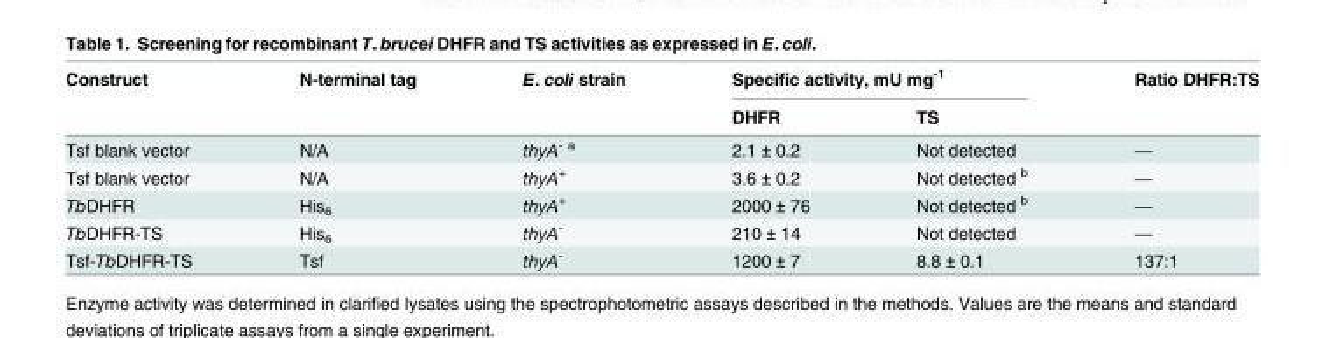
<table><thead><tr><td rowspan="2">Construct</td><td rowspan="2">N-terminal tag</td><td rowspan="2">E. coli strain</td><td colspan="2">Specific activity, mU mg<sup>-1</sup></td><td rowspan="2">Ratio DHFR:TS</td></tr><tr><td>DHFR</td><td>TS</td></tr></thead><tbody><tr><td>Tsf blank vector</td><td>N/A</td><td>thyA<sup>- a</sup></td><td>2.1 ± 0.2</td><td>Not detected</td><td>—</td></tr><tr><td>Tsf blank vector</td><td>N/A</td><td>thyA<sup>+</sup></td><td>3.6 ± 0.2</td><td>Not detected <sup>b</sup></td><td>—</td></tr><tr><td>TbDHFR</td><td>His<sub>6</sub></td><td>thyA<sup>+</sup></td><td>2000 ± 76</td><td>Not detected <sup>b</sup></td><td>—</td></tr><tr><td>TbDHFR-TS</td><td>His<sub>6</sub></td><td>thyA<sup>-</sup></td><td>210 ± 14</td><td>Not detected</td><td>—</td></tr><tr><td>Tsf-TbDHFR-TS</td><td>Tsf</td><td>thyA<sup>-</sup></td><td>1200 ± 7</td><td>8.8 ± 0.1</td><td>137:1</td></tr></tbody></table>